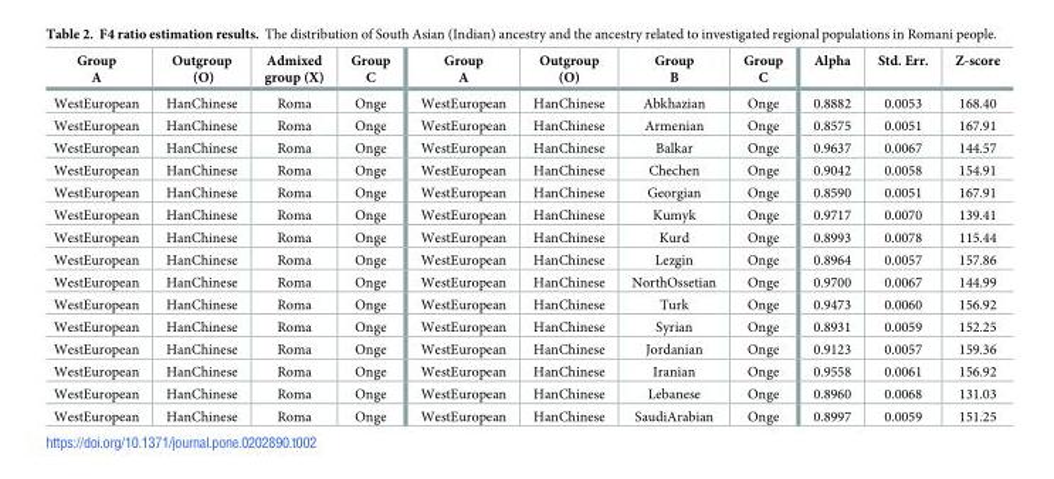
<table><thead><tr><td>Group A</td><td>Outgroup (O)</td><td>Admixed group (X)</td><td>Group C</td><td>Group A</td><td>Outgroup (O)</td><td>Group B</td><td>Group C</td><td>Alpha</td><td>Std. Err.</td><td>Z-score</td></tr></thead><tbody><tr><td>WestEuropean</td><td>HanChinese</td><td>Roma</td><td>Onge</td><td>WestEuropean</td><td>HanChinese</td><td>Abkhazian</td><td>Onge</td><td>0.8882</td><td>0.0053</td><td>168.40</td></tr><tr><td>WestEuropean</td><td>HanChinese</td><td>Roma</td><td>Onge</td><td>WestEuropean</td><td>HanChinese</td><td>Armenian</td><td>Onge</td><td>0.8575</td><td>0.0051</td><td>167.91</td></tr><tr><td>WestEuropean</td><td>HanChinese</td><td>Roma</td><td>Onge</td><td>WestEuropean</td><td>HanChinese</td><td>Balkar</td><td>Onge</td><td>0.9637</td><td>0.0067</td><td>144.57</td></tr><tr><td>WestEuropean</td><td>HanChinese</td><td>Roma</td><td>Onge</td><td>WestEuropean</td><td>HanChinese</td><td>Chechen</td><td>Onge</td><td>0.9042</td><td>0.0058</td><td>154.91</td></tr><tr><td>WestEuropean</td><td>HanChinese</td><td>Roma</td><td>Onge</td><td>WestEuropean</td><td>HanChinese</td><td>Georgian</td><td>Onge</td><td>0.8590</td><td>0.0051</td><td>167.91</td></tr><tr><td>WestEuropean</td><td>HanChinese</td><td>Roma</td><td>Onge</td><td>WestEuropean</td><td>HanChinese</td><td>Kumyk</td><td>Onge</td><td>0.9717</td><td>0.0070</td><td>139.41</td></tr><tr><td>WestEuropean</td><td>HanChinese</td><td>Roma</td><td>Onge</td><td>WestEuropean</td><td>HanChinese</td><td>Kurd</td><td>Onge</td><td>0.8993</td><td>0.0078</td><td>115.44</td></tr><tr><td>WestEuropean</td><td>HanChinese</td><td>Roma</td><td>Onge</td><td>WestEuropean</td><td>HanChinese</td><td>Lezgin</td><td>Onge</td><td>0.8964</td><td>0.0057</td><td>157.86</td></tr><tr><td>WestEuropean</td><td>HanChinese</td><td>Roma</td><td>Onge</td><td>WestEuropean</td><td>HanChinese</td><td>NorthOssetian</td><td>Onge</td><td>0.9700</td><td>0.0067</td><td>144.99</td></tr><tr><td>WestEuropean</td><td>HanChinese</td><td>Roma</td><td>Onge</td><td>WestEuropean</td><td>HanChinese</td><td>Turk</td><td>Onge</td><td>0.9473</td><td>0.0060</td><td>156.92</td></tr><tr><td>WestEuropean</td><td>HanChinese</td><td>Roma</td><td>Onge</td><td>WestEuropean</td><td>HanChinese</td><td>Syrian</td><td>Onge</td><td>0.8931</td><td>0.0059</td><td>152.25</td></tr><tr><td>WestEuropean</td><td>HanChinese</td><td>Roma</td><td>Onge</td><td>WestEuropean</td><td>HanChinese</td><td>Jordanian</td><td>Onge</td><td>0.9123</td><td>0.0057</td><td>159.36</td></tr><tr><td>WestEuropean</td><td>HanChinese</td><td>Roma</td><td>Onge</td><td>WestEuropean</td><td>HanChinese</td><td>Iranian</td><td>Onge</td><td>0.9558</td><td>0.0061</td><td>156.92</td></tr><tr><td>WestEuropean</td><td>HanChinese</td><td>Roma</td><td>Onge</td><td>WestEuropean</td><td>HanChinese</td><td>Lebanese</td><td>Onge</td><td>0.8960</td><td>0.0068</td><td>131.03</td></tr><tr><td>WestEuropean</td><td>HanChinese</td><td>Roma</td><td>Onge</td><td>WestEuropean</td><td>HanChinese</td><td>SaudiArabian</td><td>Onge</td><td>0.8997</td><td>0.0059</td><td>151.25</td></tr></tbody></table>